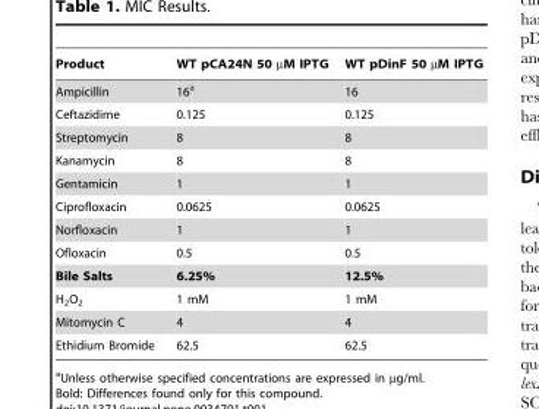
<table><thead><tr><td>Product</td><td>WT pCA24N 50 µM IPTG</td><td>WT pDinF 50 µM IPTG</td></tr></thead><tbody><tr><td>Ampicillin</td><td>16<sup>a</sup></td><td>16</td></tr><tr><td>Ceftazidime</td><td>0.125</td><td>0.125</td></tr><tr><td>Streptomycin</td><td>8</td><td>8</td></tr><tr><td>Kanamycin</td><td>8</td><td>8</td></tr><tr><td>Gentamicin</td><td>1</td><td>1</td></tr><tr><td>Ciprofloxacin</td><td>0.0625</td><td>0.0625</td></tr><tr><td>Norfloxacin</td><td>1</td><td>1</td></tr><tr><td>Ofloxacin</td><td>0.5</td><td>0.5</td></tr><tr><td>Bile Salts</td><td>6.25%</td><td>12.5%</td></tr><tr><td>H<sub>2</sub>O<sub>2</sub></td><td>1 mM</td><td>1 mM</td></tr><tr><td>Mitomycin C</td><td>4</td><td>4</td></tr><tr><td>Ethidium Bromide</td><td>62.5</td><td>62.5</td></tr></tbody></table>